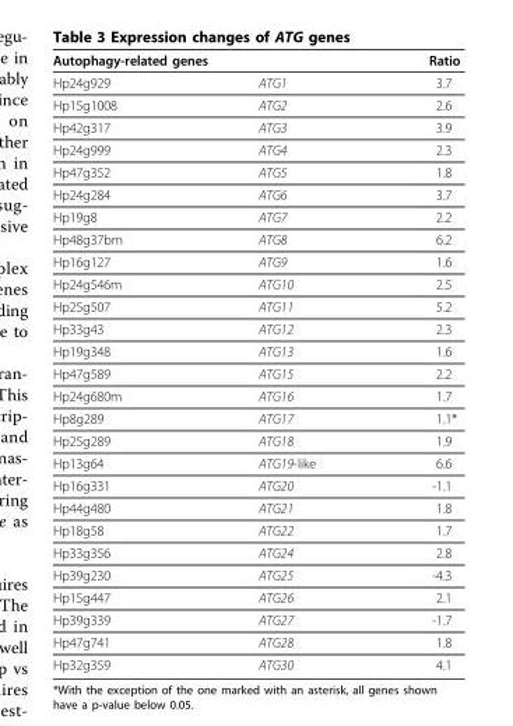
<table><thead><tr><td colspan="2">Autophagy-related genes</td><td rowspan="2">Ratio 3.7</td></tr><tr><td>Hp24g929</td><td>ATG1</td></tr></thead><tbody><tr><td>Hp15g1008</td><td>ATG2</td><td>2.6</td></tr><tr><td>Hp42g317</td><td>ATG3</td><td>3.9</td></tr><tr><td>Hp24g999</td><td>ATG4</td><td>2.3</td></tr><tr><td>Hp47g352</td><td>ATG5</td><td>1.8</td></tr><tr><td>Hp24g284</td><td>ATG6</td><td>3.7</td></tr><tr><td>Hp19g8</td><td>ATG7</td><td>2.2</td></tr><tr><td>Hp48g37bm</td><td>ATG8</td><td>6.2</td></tr><tr><td>Hp16g127</td><td>ATG9</td><td>1.6</td></tr><tr><td>Hp24g546m</td><td>ATG10</td><td>2.5</td></tr><tr><td>Hp25g507</td><td>ATG11</td><td>5.2</td></tr><tr><td>Hp33g43</td><td>ATG12</td><td>2.3</td></tr><tr><td>Hp19g348</td><td>ATG13</td><td>1.6</td></tr><tr><td>Hp47g589</td><td>ATG15</td><td>2.2</td></tr><tr><td>Hp24g680m</td><td>ATG16</td><td>1.7</td></tr><tr><td>Hp8g289</td><td>ATG17</td><td>1.1*</td></tr><tr><td>Hp25g289</td><td>ATG18</td><td>1.9</td></tr><tr><td>Hp13g64</td><td>ATG19-like</td><td>6.6</td></tr><tr><td>Hp16g331</td><td>ATG20</td><td>-1.1</td></tr><tr><td>Hp44g480</td><td>ATG21</td><td>1.8</td></tr><tr><td>Hp18g58</td><td>ATG22</td><td>1.7</td></tr><tr><td>Hp33g356</td><td>ATG24</td><td>2.8</td></tr><tr><td>Hp39g230</td><td>ATG25</td><td>-4.3</td></tr><tr><td>Hp15g447</td><td>ATG26</td><td>2.1</td></tr><tr><td>Hp39g339</td><td>ATG27</td><td>-1.7</td></tr><tr><td>Hp47g741</td><td>ATG28</td><td>1.8</td></tr><tr><td>Hp32g359</td><td>ATG30</td><td>4.1</td></tr></tbody></table>